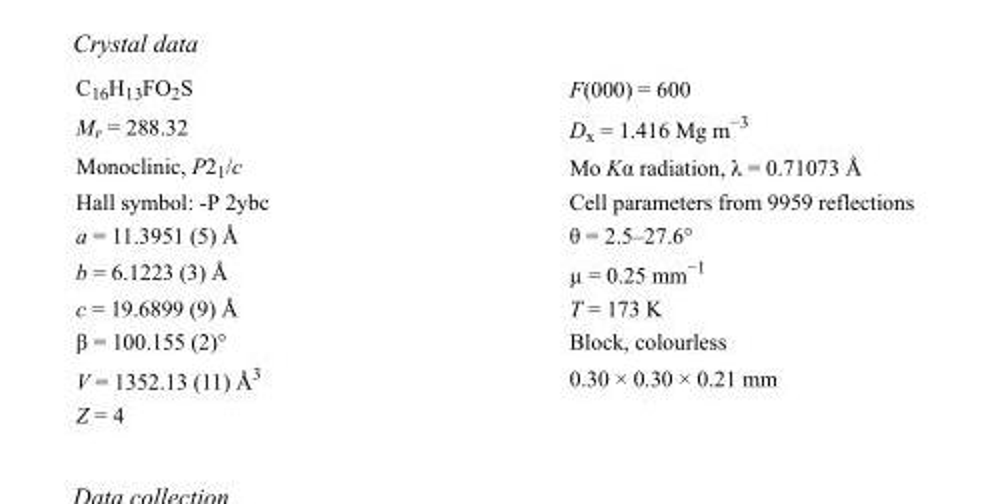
<table><tbody><tr><td>C<sub>16</sub>H<sub>13</sub>FO<sub>2</sub>S</td><td>F(000) = 600</td></tr><tr><td>M<sub>r</sub> = 288.32</td><td>D<sub>x</sub> = 1.416 Mg m<sup>−3</sup></td></tr><tr><td>Monoclinic, P2<sub>1</sub>/c</td><td>Mo Kα radiation, λ = 0.71073 Å</td></tr><tr><td>Hall symbol: -P 2ybc</td><td>Cell parameters from 9959 reflections</td></tr><tr><td>a = 11.3951 (5) Å</td><td>θ = 2.5–27.6°</td></tr><tr><td>b = 6.1223 (3) Å</td><td>µ = 0.25 mm<sup>−1</sup></td></tr><tr><td>c = 19.6899 (9) Å</td><td>T = 173 K</td></tr><tr><td>β = 100.155 (2)°</td><td>Block, colourless</td></tr><tr><td>V = 1352.13 (11) Å<sup>3</sup></td><td>0.30 × 0.30 × 0.21 mm</td></tr><tr><td>Z = 4</td><td></td></tr></tbody></table>